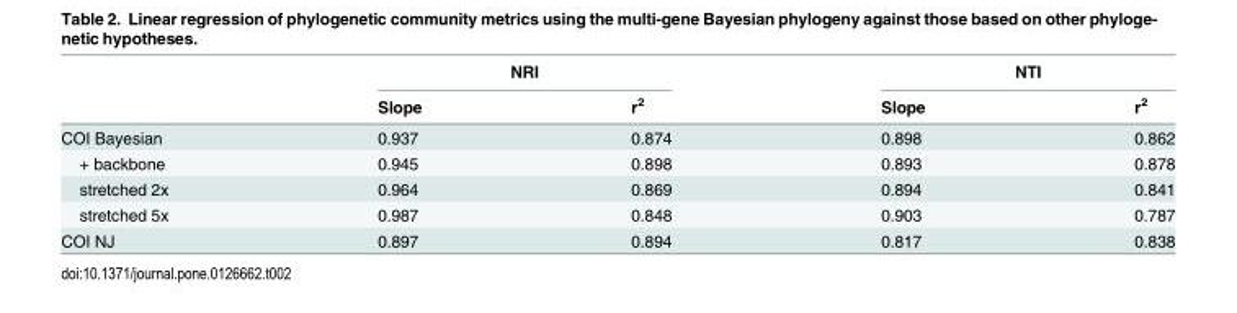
<table><thead><tr><td rowspan="2"></td><td colspan="2">NRI</td><td colspan="2">NTI</td></tr><tr><td>Slope</td><td>r<sup>2</sup></td><td>Slope</td><td>r<sup>2</sup></td></tr></thead><tbody><tr><td>COI Bayesian</td><td>0.937</td><td>0.874</td><td>0.898</td><td>0.862</td></tr><tr><td>+ backbone</td><td>0.945</td><td>0.898</td><td>0.893</td><td>0.878</td></tr><tr><td>stretched 2x</td><td>0.964</td><td>0.869</td><td>0.894</td><td>0.841</td></tr><tr><td>stretched 5x</td><td>0.987</td><td>0.848</td><td>0.903</td><td>0.787</td></tr><tr><td>COI NJ</td><td>0.897</td><td>0.894</td><td>0.817</td><td>0.838</td></tr></tbody></table>